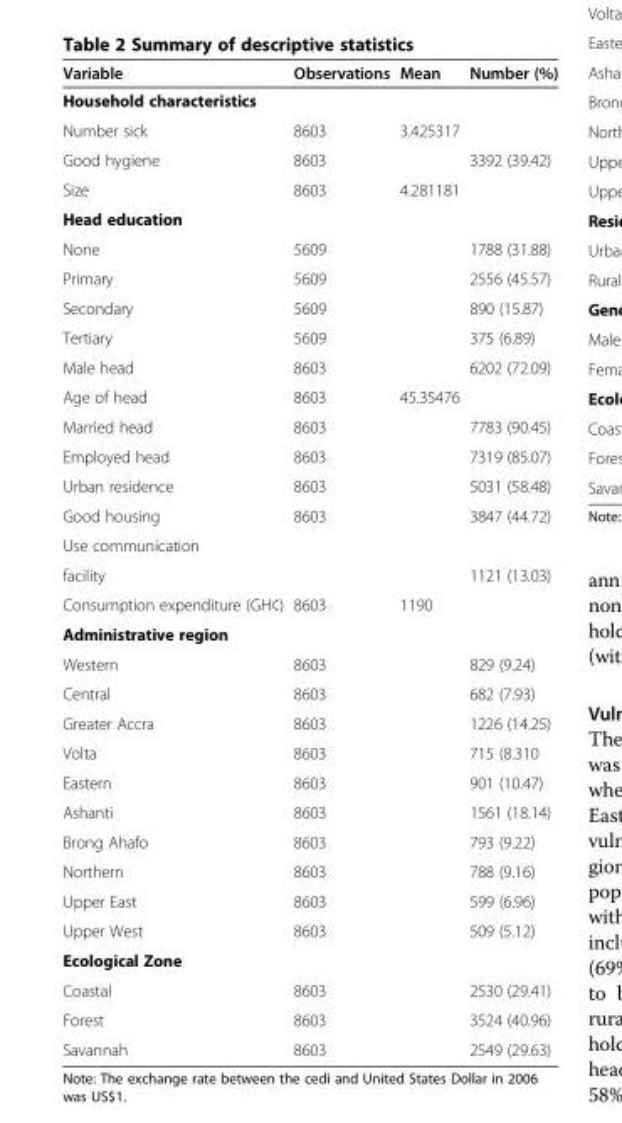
<table><thead><tr><td>Variable</td><td>Observations</td><td>Mean</td><td>Number (%)</td></tr></thead><tbody><tr><td colspan="4">Household characteristics</td></tr><tr><td>Number sick</td><td>8603</td><td>3.425317</td><td></td></tr><tr><td>Good hygiene</td><td>8603</td><td></td><td>3392 (39.42)</td></tr><tr><td>Size</td><td>8603</td><td>4.281181</td><td></td></tr><tr><td colspan="4">Head education</td></tr><tr><td>None</td><td>5609</td><td></td><td>1788 (31.88)</td></tr><tr><td>Primary</td><td>5609</td><td></td><td>2556 (45.57)</td></tr><tr><td>Secondary</td><td>5609</td><td></td><td>890 (15.87)</td></tr><tr><td>Tertiary</td><td>5609</td><td></td><td>375 (6.89)</td></tr><tr><td>Male head</td><td>8603</td><td></td><td>6202 (72.09)</td></tr><tr><td>Age of head</td><td>8603</td><td>45.35476</td><td></td></tr><tr><td>Married head</td><td>8603</td><td></td><td>7783 (90.45)</td></tr><tr><td>Employed head</td><td>8603</td><td></td><td>7319 (85.07)</td></tr><tr><td>Urban residence</td><td>8603</td><td></td><td>5031 (58.48)</td></tr><tr><td>Good housing</td><td>8603</td><td></td><td>3847 (44.72)</td></tr><tr><td colspan="4">Use communication</td></tr><tr><td>facility</td><td></td><td></td><td>1121 (13.03)</td></tr><tr><td>Consumption expenditure (GH¢)</td><td>8603</td><td>1190</td><td></td></tr><tr><td colspan="4">Administrative region</td></tr><tr><td>Western</td><td>8603</td><td></td><td>829 (9.24)</td></tr><tr><td>Central</td><td>8603</td><td></td><td>682 (7.93)</td></tr><tr><td>Greater Accra</td><td>8603</td><td></td><td>1226 (14.25)</td></tr><tr><td>Volta</td><td>8603</td><td></td><td>715 (8.310</td></tr><tr><td>Eastern</td><td>8603</td><td></td><td>901 (10.47)</td></tr><tr><td>Ashanti</td><td>8603</td><td></td><td>1561 (18.14)</td></tr><tr><td>Brong Ahafo</td><td>8603</td><td></td><td>793 (9.22)</td></tr><tr><td>Northern</td><td>8603</td><td></td><td>788 (9.16)</td></tr><tr><td>Upper East</td><td>8603</td><td></td><td>599 (6.96)</td></tr><tr><td>Upper West</td><td>8603</td><td></td><td>509 (5.12)</td></tr><tr><td colspan="4">Ecological Zone</td></tr><tr><td>Coastal</td><td>8603</td><td></td><td>2530 (29.41)</td></tr><tr><td>Forest</td><td>8603</td><td></td><td>3524 (40.96)</td></tr><tr><td>Savannah</td><td>8603</td><td></td><td>2549 (29.63)</td></tr></tbody></table>